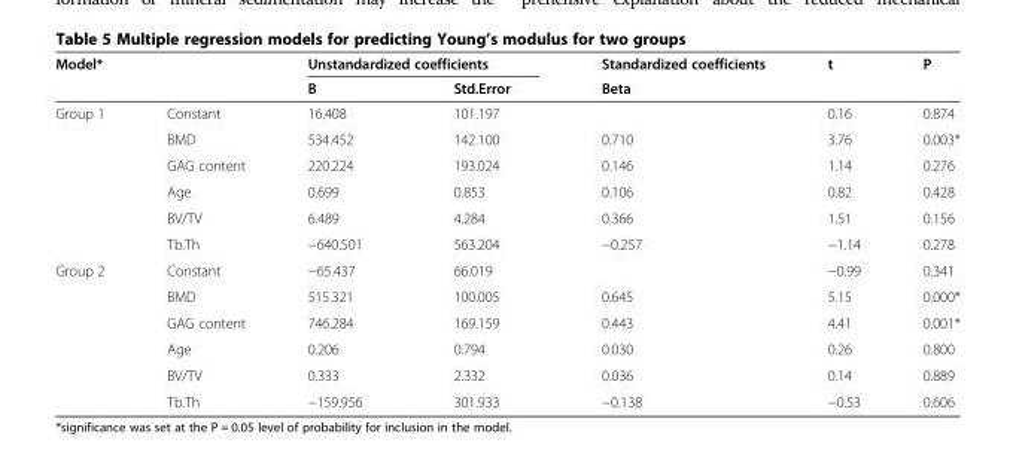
<table><thead><tr><td colspan="2">Model*</td><td colspan="2">Unstandardized coefficients</td><td rowspan="2">Standardized coefficients Beta</td><td rowspan="2">t</td><td rowspan="2">P</td></tr><tr><td></td><td></td><td>B</td><td>Std.Error</td></tr></thead><tbody><tr><td rowspan="6">Group 1</td><td>Constant</td><td>16.408</td><td>101.197</td><td></td><td>0.16</td><td>0.874</td></tr><tr><td>BMD</td><td>534.452</td><td>142.100</td><td>0.710</td><td>3.76</td><td>0.003*</td></tr><tr><td>GAG content</td><td>220.224</td><td>193.024</td><td>0.146</td><td>1.14</td><td>0.276</td></tr><tr><td>Age</td><td>0.699</td><td>0.853</td><td>0.106</td><td>0.82</td><td>0.428</td></tr><tr><td>BV/TV</td><td>6.489</td><td>4.284</td><td>0.366</td><td>1.51</td><td>0.156</td></tr><tr><td>Tb.Th</td><td>−640.501</td><td>563.204</td><td>−0.257</td><td>−1.14</td><td>0.278</td></tr><tr><td rowspan="6">Group 2</td><td>Constant</td><td>−65.437</td><td>66.019</td><td></td><td>−0.99</td><td>0.341</td></tr><tr><td>BMD</td><td>515.321</td><td>100.005</td><td>0.645</td><td>5.15</td><td>0.000*</td></tr><tr><td>GAG content</td><td>746.284</td><td>169.159</td><td>0.443</td><td>4.41</td><td>0.001*</td></tr><tr><td>Age</td><td>0.206</td><td>0.794</td><td>0.030</td><td>0.26</td><td>0.800</td></tr><tr><td>BV/TV</td><td>0.333</td><td>2.332</td><td>0.036</td><td>0.14</td><td>0.889</td></tr><tr><td>Tb.Th</td><td>−159.956</td><td>301.933</td><td>−0.138</td><td>−0.53</td><td>0.606</td></tr></tbody></table>